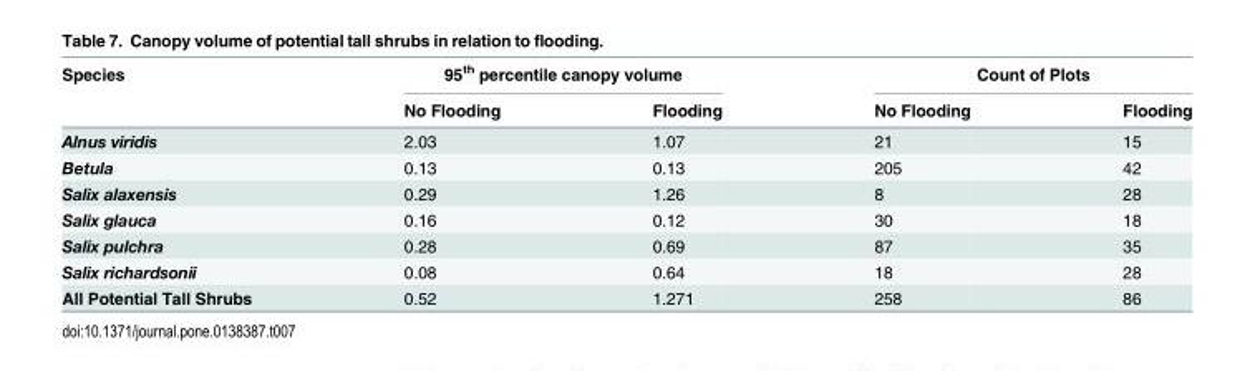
<table><thead><tr><td rowspan="2">Species</td><td colspan="2">95<sup>th</sup> percentile canopy volume</td><td colspan="2">Count of Plots</td></tr><tr><td>No Flooding</td><td>Flooding</td><td>No Flooding</td><td>Flooding</td></tr></thead><tbody><tr><td>Alnus viridis</td><td>2.03</td><td>1.07</td><td>21</td><td>15</td></tr><tr><td>Betula</td><td>0.13</td><td>0.13</td><td>205</td><td>42</td></tr><tr><td>Salix alaxensis</td><td>0.29</td><td>1.26</td><td>8</td><td>28</td></tr><tr><td>Salix glauca</td><td>0.16</td><td>0.12</td><td>30</td><td>18</td></tr><tr><td>Salix pulchra</td><td>0.28</td><td>0.69</td><td>87</td><td>35</td></tr><tr><td>Salix richardsonii</td><td>0.08</td><td>0.64</td><td>18</td><td>28</td></tr><tr><td>All Potential Tall Shrubs</td><td>0.52</td><td>1.271</td><td>258</td><td>86</td></tr></tbody></table>